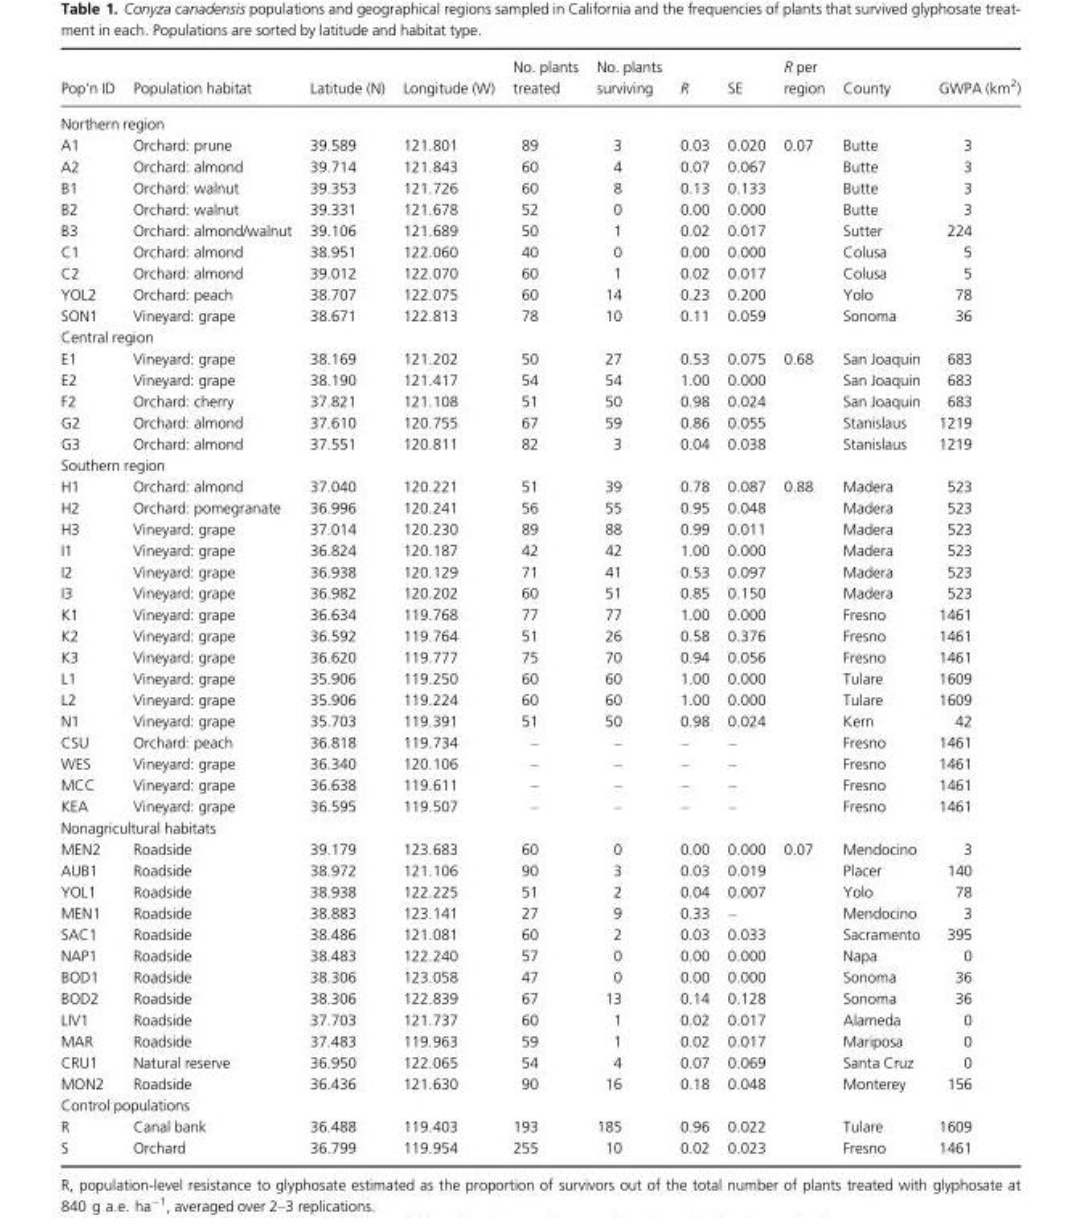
<table><thead><tr><td>Pop’n ID</td><td>Population habitat</td><td>Latitude (N)</td><td>Longitude (W)</td><td>No. plants treated</td><td>No. plants surviving</td><td>R</td><td>SE</td><td>R per region</td><td>County</td><td>GWPA (km<sup>2</sup>)</td></tr></thead><tbody><tr><td colspan="11">Northern region</td></tr><tr><td>A1</td><td>Orchard: prune</td><td>39.589</td><td>121.801</td><td>89</td><td>3</td><td>0.03</td><td>0.020</td><td rowspan="9">0.07</td><td>Butte</td><td>3</td></tr><tr><td>A2</td><td>Orchard: almond</td><td>39.714</td><td>121.843</td><td>60</td><td>4</td><td>0.07</td><td>0.067</td><td>Butte</td><td>3</td></tr><tr><td>B1</td><td>Orchard: walnut</td><td>39.353</td><td>121.726</td><td>60</td><td>8</td><td>0.13</td><td>0.133</td><td>Butte</td><td>3</td></tr><tr><td>B2</td><td>Orchard: walnut</td><td>39.331</td><td>121.678</td><td>52</td><td>0</td><td>0.00</td><td>0.000</td><td>Butte</td><td>3</td></tr><tr><td>B3</td><td>Orchard: almond/walnut</td><td>39.106</td><td>121.689</td><td>50</td><td>1</td><td>0.02</td><td>0.017</td><td>Sutter</td><td>224</td></tr><tr><td>C1</td><td>Orchard: almond</td><td>38.951</td><td>122.060</td><td>40</td><td>0</td><td>0.00</td><td>0.000</td><td>Colusa</td><td>5</td></tr><tr><td>C2</td><td>Orchard: almond</td><td>39.012</td><td>122.070</td><td>60</td><td>1</td><td>0.02</td><td>0.017</td><td>Colusa</td><td>5</td></tr><tr><td>YOL2</td><td>Orchard: peach</td><td>38.707</td><td>122.075</td><td>60</td><td>14</td><td>0.23</td><td>0.200</td><td>Yolo</td><td>78</td></tr><tr><td>SON1</td><td>Vineyard: grape</td><td>38.671</td><td>122.813</td><td>78</td><td>10</td><td>0.11</td><td>0.059</td><td>Sonoma</td><td>36</td></tr><tr><td colspan="11">Central region</td></tr><tr><td>E1</td><td>Vineyard: grape</td><td>38.169</td><td>121.202</td><td>50</td><td>27</td><td>0.53</td><td>0.075</td><td rowspan="5">0.68</td><td>San Joaquin</td><td>683</td></tr><tr><td>E2</td><td>Vineyard: grape</td><td>38.190</td><td>121.417</td><td>54</td><td>54</td><td>1.00</td><td>0.000</td><td>San Joaquin</td><td>683</td></tr><tr><td>F2</td><td>Orchard: cherry</td><td>37.821</td><td>121.108</td><td>51</td><td>50</td><td>0.98</td><td>0.024</td><td>San Joaquin</td><td>683</td></tr><tr><td>G2</td><td>Orchard: almond</td><td>37.610</td><td>120.755</td><td>67</td><td>59</td><td>0.86</td><td>0.055</td><td>Stanislaus</td><td>1219</td></tr><tr><td>G3</td><td>Orchard: almond</td><td>37.551</td><td>120.811</td><td>82</td><td>3</td><td>0.04</td><td>0.038</td><td>Stanislaus</td><td>1219</td></tr><tr><td colspan="11">Southern region</td></tr><tr><td>H1</td><td>Orchard: almond</td><td>37.040</td><td>120.221</td><td>51</td><td>39</td><td>0.78</td><td>0.087</td><td rowspan="16">0.88</td><td>Madera</td><td>523</td></tr><tr><td>H2</td><td>Orchard: pomegranate</td><td>36.996</td><td>120.241</td><td>56</td><td>55</td><td>0.95</td><td>0.048</td><td>Madera</td><td>523</td></tr><tr><td>H3</td><td>Vineyard: grape</td><td>37.014</td><td>120.230</td><td>89</td><td>88</td><td>0.99</td><td>0.011</td><td>Madera</td><td>523</td></tr><tr><td>I1</td><td>Vineyard: grape</td><td>36.824</td><td>120.187</td><td>42</td><td>42</td><td>1.00</td><td>0.000</td><td>Madera</td><td>523</td></tr><tr><td>I2</td><td>Vineyard: grape</td><td>36.938</td><td>120.129</td><td>71</td><td>41</td><td>0.53</td><td>0.097</td><td>Madera</td><td>523</td></tr><tr><td>I3</td><td>Vineyard: grape</td><td>36.982</td><td>120.202</td><td>60</td><td>51</td><td>0.85</td><td>0.150</td><td>Madera</td><td>523</td></tr><tr><td>K1</td><td>Vineyard: grape</td><td>36.634</td><td>119.768</td><td>77</td><td>77</td><td>1.00</td><td>0.000</td><td>Fresno</td><td>1461</td></tr><tr><td>K2</td><td>Vineyard: grape</td><td>36.592</td><td>119.764</td><td>51</td><td>26</td><td>0.58</td><td>0.376</td><td>Fresno</td><td>1461</td></tr><tr><td>K3</td><td>Vineyard: grape</td><td>36.620</td><td>119.777</td><td>75</td><td>70</td><td>0.94</td><td>0.056</td><td>Fresno</td><td>1461</td></tr><tr><td>L1</td><td>Vineyard: grape</td><td>35.906</td><td>119.250</td><td>60</td><td>60</td><td>1.00</td><td>0.000</td><td>Tulare</td><td>1609</td></tr><tr><td>L2</td><td>Vineyard: grape</td><td>35.906</td><td>119.224</td><td>60</td><td>60</td><td>1.00</td><td>0.000</td><td>Tulare</td><td>1609</td></tr><tr><td>N1</td><td>Vineyard: grape</td><td>35.703</td><td>119.391</td><td>51</td><td>50</td><td>0.98</td><td>0.024</td><td>Kern</td><td>42</td></tr><tr><td>CSU</td><td>Orchard: peach</td><td>36.818</td><td>119.734</td><td>–</td><td>–</td><td>–</td><td>–</td><td>Fresno</td><td>1461</td></tr><tr><td>WES</td><td>Vineyard: grape</td><td>36.340</td><td>120.106</td><td>–</td><td>–</td><td>–</td><td>–</td><td>Fresno</td><td>1461</td></tr><tr><td>MCC</td><td>Vineyard: grape</td><td>36.638</td><td>119.611</td><td>–</td><td>–</td><td>–</td><td>–</td><td>Fresno</td><td>1461</td></tr><tr><td>KEA</td><td>Vineyard: grape</td><td>36.595</td><td>119.507</td><td>–</td><td>–</td><td>–</td><td>–</td><td>Fresno</td><td>1461</td></tr><tr><td colspan="11">Nonagricultural habitats</td></tr><tr><td>MEN2</td><td>Roadside</td><td>39.179</td><td>123.683</td><td>60</td><td>0</td><td>0.00</td><td>0.000</td><td rowspan="12">0.07</td><td>Mendocino</td><td>3</td></tr><tr><td>AUB1</td><td>Roadside</td><td>38.972</td><td>121.106</td><td>90</td><td>3</td><td>0.03</td><td>0.019</td><td>Placer</td><td>140</td></tr><tr><td>YOL1</td><td>Roadside</td><td>38.938</td><td>122.225</td><td>51</td><td>2</td><td>0.04</td><td>0.007</td><td>Yolo</td><td>78</td></tr><tr><td>MEN1</td><td>Roadside</td><td>38.883</td><td>123.141</td><td>27</td><td>9</td><td>0.33</td><td>–</td><td>Mendocino</td><td>3</td></tr><tr><td>SAC1</td><td>Roadside</td><td>38.486</td><td>121.081</td><td>60</td><td>2</td><td>0.03</td><td>0.033</td><td>Sacramento</td><td>395</td></tr><tr><td>NAP1</td><td>Roadside</td><td>38.483</td><td>122.240</td><td>57</td><td>0</td><td>0.00</td><td>0.000</td><td>Napa</td><td>0</td></tr><tr><td>BOD1</td><td>Roadside</td><td>38.306</td><td>123.058</td><td>47</td><td>0</td><td>0.00</td><td>0.000</td><td>Sonoma</td><td>36</td></tr><tr><td>BOD2</td><td>Roadside</td><td>38.306</td><td>122.839</td><td>67</td><td>13</td><td>0.14</td><td>0.128</td><td>Sonoma</td><td>36</td></tr><tr><td>LIV1</td><td>Roadside</td><td>37.703</td><td>121.737</td><td>60</td><td>1</td><td>0.02</td><td>0.017</td><td>Alameda</td><td>0</td></tr><tr><td>MAR</td><td>Roadside</td><td>37.483</td><td>119.963</td><td>59</td><td>1</td><td>0.02</td><td>0.017</td><td>Mariposa</td><td>0</td></tr><tr><td>CRU1</td><td>Natural reserve</td><td>36.950</td><td>122.065</td><td>54</td><td>4</td><td>0.07</td><td>0.069</td><td>Santa Cruz</td><td>0</td></tr><tr><td>MON2</td><td>Roadside</td><td>36.436</td><td>121.630</td><td>90</td><td>16</td><td>0.18</td><td>0.048</td><td>Monterey</td><td>156</td></tr><tr><td colspan="11">Control populations</td></tr><tr><td>R</td><td>Canal bank</td><td>36.488</td><td>119.403</td><td>193</td><td>185</td><td>0.96</td><td>0.022</td><td></td><td>Tulare</td><td>1609</td></tr><tr><td>S</td><td>Orchard</td><td>36.799</td><td>119.954</td><td>255</td><td>10</td><td>0.02</td><td>0.023</td><td></td><td>Fresno</td><td>1461</td></tr></tbody></table>